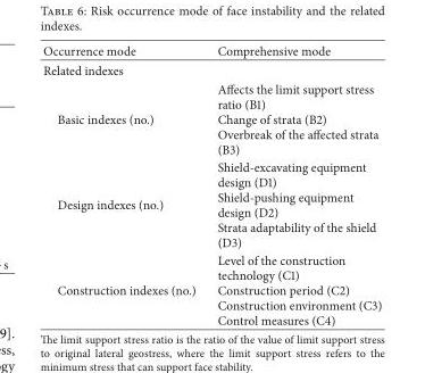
<table><thead><tr><td>Occurrence mode</td><td>Comprehensive mode</td></tr></thead><tbody><tr><td colspan="2">Related indexes</td></tr><tr><td>Basic indexes (no.)</td><td>Affects the limit support stress ratio (B1) Change of strata (B2) Overbreak of the affected strata (B3)</td></tr><tr><td>Design indexes (no.)</td><td>Shield-excavating equipment design (D1) Shield-pushing equipment design (D2) Strata adaptability of the shield (D3)</td></tr><tr><td>Construction indexes (no.)</td><td>Level of the construction technology (C1) Construction period (C2) Construction environment (C3) Control measures (C4)</td></tr></tbody></table>